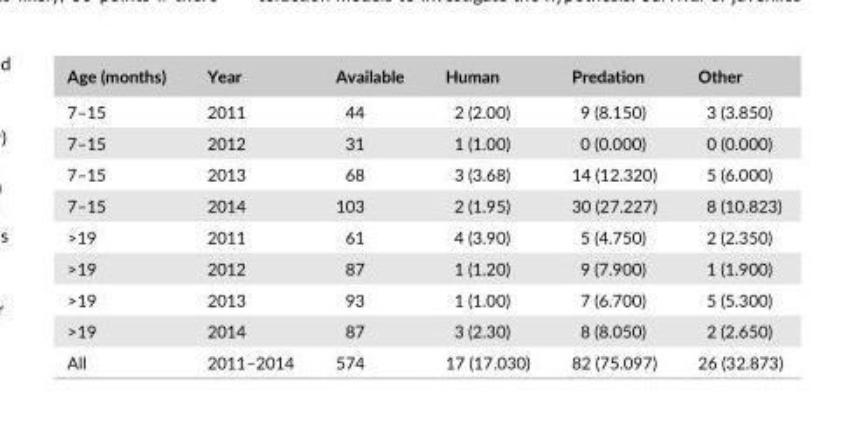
<table><thead><tr><td>Age (months)</td><td>Year</td><td>Available</td><td>Human</td><td>Predation</td><td>Other</td></tr></thead><tbody><tr><td>7–15</td><td>2011</td><td>44</td><td>2 (2.00)</td><td>9 (8.150)</td><td>3 (3.850)</td></tr><tr><td>7–15</td><td>2012</td><td>31</td><td>1 (1.00)</td><td>0 (0.000)</td><td>0 (0.000)</td></tr><tr><td>7–15</td><td>2013</td><td>68</td><td>3 (3.68)</td><td>14 (12.320)</td><td>5 (6.000)</td></tr><tr><td>7–15</td><td>2014</td><td>103</td><td>2 (1.95)</td><td>30 (27.227)</td><td>8 (10.823)</td></tr><tr><td>&gt;19</td><td>2011</td><td>61</td><td>4 (3.90)</td><td>5 (4.750)</td><td>2 (2.350)</td></tr><tr><td>&gt;19</td><td>2012</td><td>87</td><td>1 (1.20)</td><td>9 (7.900)</td><td>1 (1.900)</td></tr><tr><td>&gt;19</td><td>2013</td><td>93</td><td>1 (1.00)</td><td>7 (6.700)</td><td>5 (5.300)</td></tr><tr><td>&gt;19</td><td>2014</td><td>87</td><td>3 (2.30)</td><td>8 (8.050)</td><td>2 (2.650)</td></tr><tr><td>All</td><td>2011–2014</td><td>574</td><td>17 (17.030)</td><td>82 (75.097)</td><td>26 (32.873)</td></tr></tbody></table>